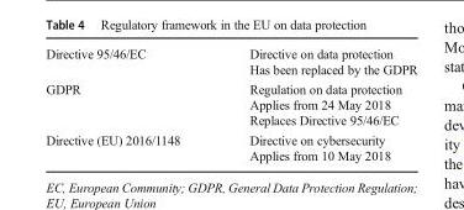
<table><tbody><tr><td>Directive 95/46/EC</td><td>Directive on data protection Has been replaced by the GDPR</td></tr><tr><td>GDPR</td><td>Regulation on data protection Applies from 24 May 2018 Replaces Directive 95/46/EC</td></tr><tr><td>Directive (EU) 2016/1148</td><td>Directive on cybersecurity Applies from 10 May 2018</td></tr></tbody></table>